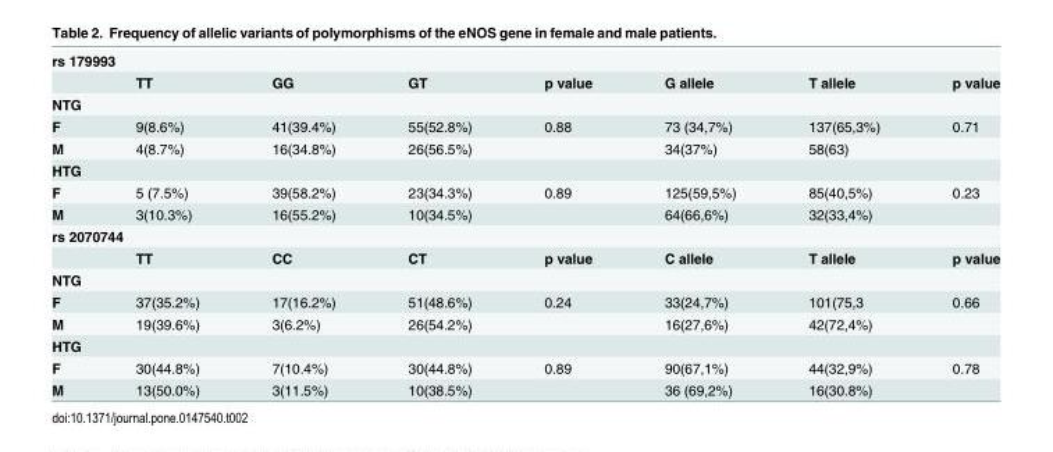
<table><tbody><tr><td colspan="8">rs 179993</td></tr><tr><td></td><td>TT</td><td>GG</td><td>GT</td><td>p value</td><td>G allele</td><td>T allele</td><td>p value</td></tr><tr><td colspan="8">NTG</td></tr><tr><td>F</td><td>9(8.6%)</td><td>41(39.4%)</td><td>55(52.8%)</td><td>0.88</td><td>73 (34,7%)</td><td>137(65,3%)</td><td>0.71</td></tr><tr><td>M</td><td>4(8.7%)</td><td>16(34.8%)</td><td>26(56.5%)</td><td></td><td>34(37%)</td><td>58(63)</td><td></td></tr><tr><td colspan="8">HTG</td></tr><tr><td>F</td><td>5 (7.5%)</td><td>39(58.2%)</td><td>23(34.3%)</td><td>0.89</td><td>125(59,5%)</td><td>85(40,5%)</td><td>0.23</td></tr><tr><td>M</td><td>3(10.3%)</td><td>16(55.2%)</td><td>10(34.5%)</td><td></td><td>64(66,6%)</td><td>32(33,4%)</td><td></td></tr><tr><td colspan="8">rs 2070744</td></tr><tr><td></td><td>TT</td><td>CC</td><td>CT</td><td>p value</td><td>C allele</td><td>T allele</td><td>p value</td></tr><tr><td colspan="8">NTG</td></tr><tr><td>F</td><td>37(35.2%)</td><td>17(16.2%)</td><td>51(48.6%)</td><td>0.24</td><td>33(24,7%)</td><td>101(75,3</td><td>0.66</td></tr><tr><td>M</td><td>19(39.6%)</td><td>3(6.2%)</td><td>26(54.2%)</td><td></td><td>16(27,6%)</td><td>42(72,4%)</td><td></td></tr><tr><td colspan="8">HTG</td></tr><tr><td>F</td><td>30(44.8%)</td><td>7(10.4%)</td><td>30(44.8%)</td><td>0.89</td><td>90(67,1%)</td><td>44(32,9%)</td><td>0.78</td></tr><tr><td>M</td><td>13(50.0%)</td><td>3(11.5%)</td><td>10(38.5%)</td><td></td><td>36 (69,2%)</td><td>16(30.8%)</td><td></td></tr></tbody></table>